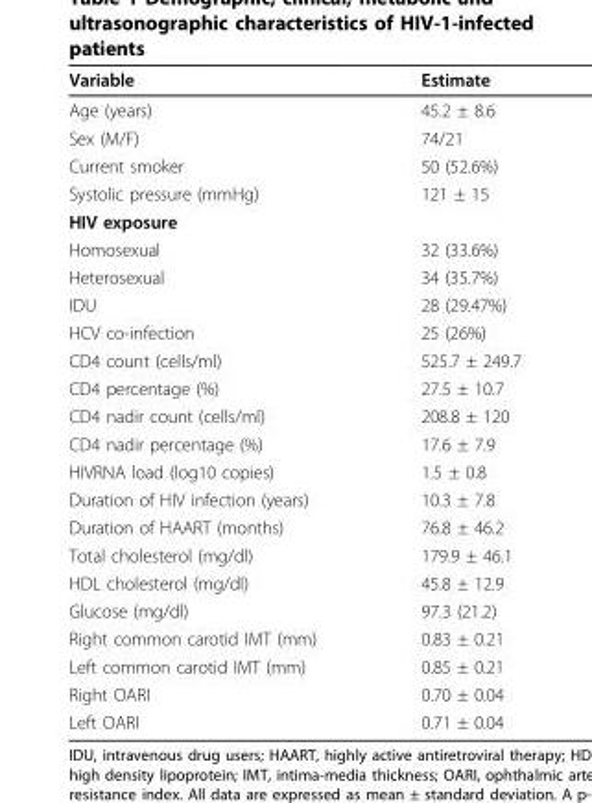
<table><thead><tr><td>Variable</td><td>Estimate</td></tr></thead><tbody><tr><td>Age (years)</td><td>45.2 ± 8.6</td></tr><tr><td>Sex (M/F)</td><td>74/21</td></tr><tr><td>Current smoker</td><td>50 (52.6%)</td></tr><tr><td>Systolic pressure (mmHg)</td><td>121 ± 15</td></tr><tr><td colspan="2">HIV exposure</td></tr><tr><td>Homosexual</td><td>32 (33.6%)</td></tr><tr><td>Heterosexual</td><td>34 (35.7%)</td></tr><tr><td>IDU</td><td>28 (29.47%)</td></tr><tr><td>HCV co-infection</td><td>25 (26%)</td></tr><tr><td>CD4 count (cells/ml)</td><td>525.7 ± 249.7</td></tr><tr><td>CD4 percentage (%)</td><td>27.5 ± 10.7</td></tr><tr><td>CD4 nadir count (cells/ml)</td><td>208.8 ± 120</td></tr><tr><td>CD4 nadir percentage (%)</td><td>17.6 ± 7.9</td></tr><tr><td>HIVRNA load (log10 copies)</td><td>1.5 ± 0.8</td></tr><tr><td>Duration of HIV infection (years)</td><td>10.3 ± 7.8</td></tr><tr><td>Duration of HAART (months)</td><td>76.8 ± 46.2</td></tr><tr><td>Total cholesterol (mg/dl)</td><td>179.9 ± 46.1</td></tr><tr><td>HDL cholesterol (mg/dl)</td><td>45.8 ± 12.9</td></tr><tr><td>Glucose (mg/dl)</td><td>97.3 (21.2)</td></tr><tr><td>Right common carotid IMT (mm)</td><td>0.83 ± 0.21</td></tr><tr><td>Left common carotid IMT (mm)</td><td>0.85 ± 0.21</td></tr><tr><td>Right OARI</td><td>0.70 ± 0.04</td></tr><tr><td>Left OARI</td><td>0.71 ± 0.04</td></tr></tbody></table>